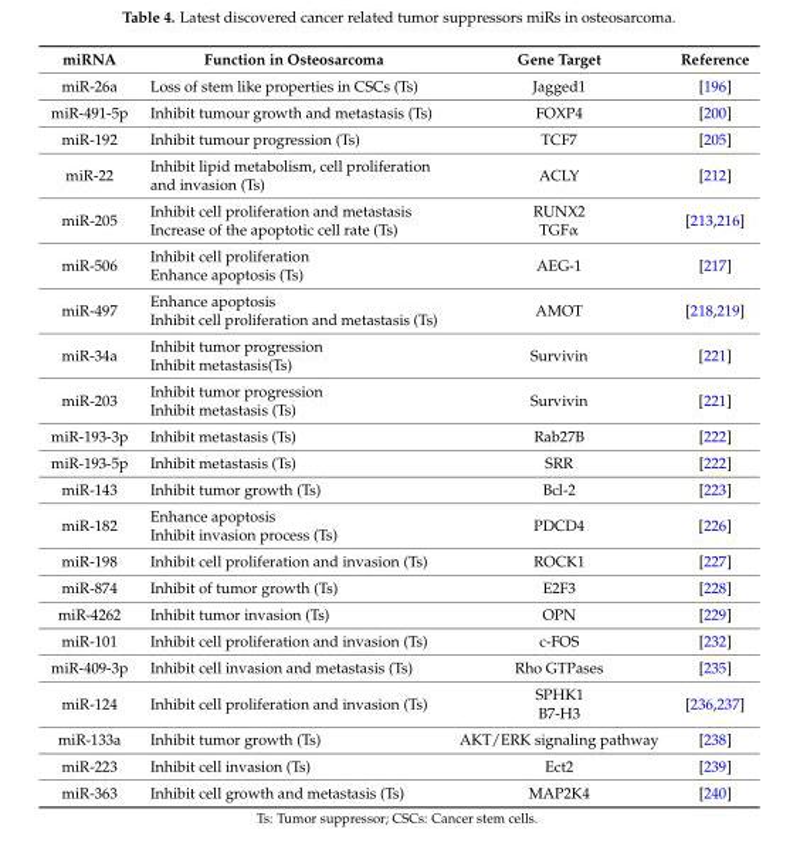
<table><thead><tr><td>miRNA</td><td>Function in Osteosarcoma</td><td>Gene Target</td><td>Reference</td></tr></thead><tbody><tr><td>miR-26a</td><td>Loss of stem like properties in CSCs (Ts)</td><td>Jagged1</td><td>[196]</td></tr><tr><td>miR-491-5p</td><td>Inhibit tumour growth and metastasis (Ts)</td><td>FOXP4</td><td>[200]</td></tr><tr><td>miR-192</td><td>Inhibit tumour progression (Ts)</td><td>TCF7</td><td>[205]</td></tr><tr><td>miR-22</td><td>Inhibit lipid metabolism, cell proliferation and invasion (Ts)</td><td>ACLY</td><td>[212]</td></tr><tr><td>miR-205</td><td>Inhibit cell proliferation and metastasis Increase of the apoptotic cell rate (Ts)</td><td>RUNX2 TGFα</td><td>[213,216]</td></tr><tr><td>miR-506</td><td>Inhibit cell proliferation Enhance apoptosis (Ts)</td><td>AEG-1</td><td>[217]</td></tr><tr><td>miR-497</td><td>Enhance apoptosis Inhibit cell proliferation and metastasis (Ts)</td><td>AMOT</td><td>[218,219]</td></tr><tr><td>miR-34a</td><td>Inhibit tumor progression Inhibit metastasis(Ts)</td><td>Survivin</td><td>[221]</td></tr><tr><td>miR-203</td><td>Inhibit tumor progression Inhibit metastasis (Ts)</td><td>Survivin</td><td>[221]</td></tr><tr><td>miR-193-3p</td><td>Inhibit metastasis (Ts)</td><td>Rab27B</td><td>[222]</td></tr><tr><td>miR-193-5p</td><td>Inhibit metastasis (Ts)</td><td>SRR</td><td>[222]</td></tr><tr><td>miR-143</td><td>Inhibit tumor growth (Ts)</td><td>Bcl-2</td><td>[223]</td></tr><tr><td>miR-182</td><td>Enhance apoptosis Inhibit invasion process (Ts)</td><td>PDCD4</td><td>[226]</td></tr><tr><td>miR-198</td><td>Inhibit cell proliferation and invasion (Ts)</td><td>ROCK1</td><td>[227]</td></tr><tr><td>miR-874</td><td>Inhibit of tumor growth (Ts)</td><td>E2F3</td><td>[228]</td></tr><tr><td>miR-4262</td><td>Inhibit tumor invasion (Ts)</td><td>OPN</td><td>[229]</td></tr><tr><td>miR-101</td><td>Inhibit cell proliferation and invasion (Ts)</td><td>c-FOS</td><td>[232]</td></tr><tr><td>miR-409-3p</td><td>Inhibit cell invasion and metastasis (Ts)</td><td>Rho GTPases</td><td>[235]</td></tr><tr><td>miR-124</td><td>Inhibit cell proliferation and invasion (Ts)</td><td>SPHK1 B7-H3</td><td>[236,237]</td></tr><tr><td>miR-133a</td><td>Inhibit tumor growth (Ts)</td><td>AKT/ERK signaling pathway</td><td>[238]</td></tr><tr><td>miR-223</td><td>Inhibit cell invasion (Ts)</td><td>Ect2</td><td>[239]</td></tr><tr><td>miR-363</td><td>Inhibit cell growth and metastasis (Ts)</td><td>MAP2K4</td><td>[240]</td></tr></tbody></table>